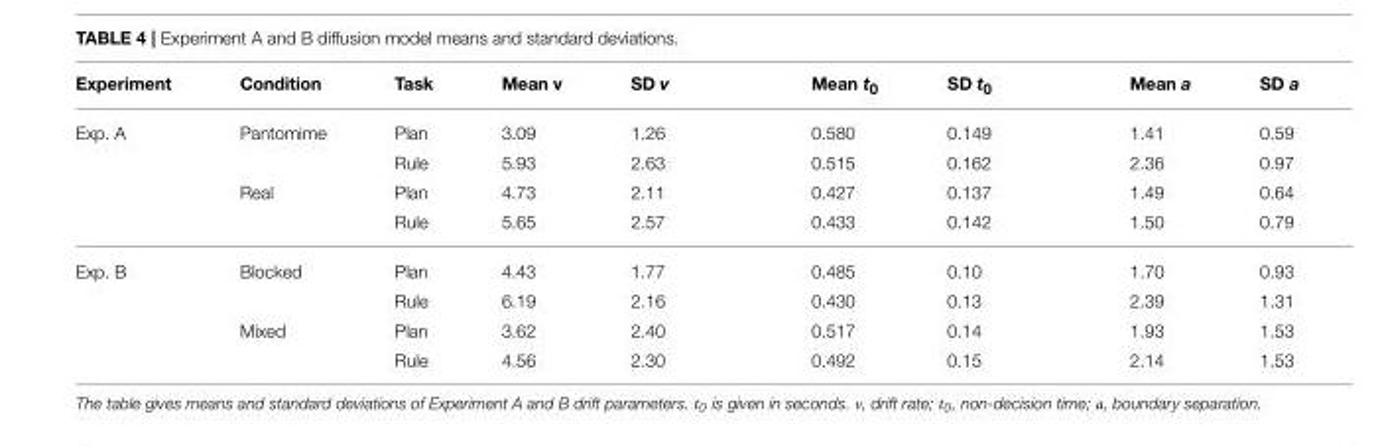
<table><thead><tr><td>Experiment</td><td>Condition</td><td>Task</td><td>Mean v</td><td>SD v</td><td>Mean t<sub>0</sub></td><td>SD t<sub>0</sub></td><td>Mean a</td><td>SD a</td></tr></thead><tbody><tr><td rowspan="4">Exp. A</td><td>Pantomime</td><td>Plan</td><td>3.09</td><td>1.26</td><td>0.580</td><td>0.149</td><td>1.41</td><td>0.59</td></tr><tr><td></td><td>Rule</td><td>5.93</td><td>2.63</td><td>0.515</td><td>0.162</td><td>2.36</td><td>0.97</td></tr><tr><td>Real</td><td>Plan</td><td>4.73</td><td>2.11</td><td>0.427</td><td>0.137</td><td>1.49</td><td>0.64</td></tr><tr><td></td><td>Rule</td><td>5.65</td><td>2.57</td><td>0.433</td><td>0.142</td><td>1.50</td><td>0.79</td></tr><tr><td rowspan="4">Exp. B</td><td>Blocked</td><td>Plan</td><td>4.43</td><td>1.77</td><td>0.485</td><td>0.10</td><td>1.70</td><td>0.93</td></tr><tr><td></td><td>Rule</td><td>6.19</td><td>2.16</td><td>0.430</td><td>0.13</td><td>2.39</td><td>1.31</td></tr><tr><td>Mixed</td><td>Plan</td><td>3.62</td><td>2.40</td><td>0.517</td><td>0.14</td><td>1.93</td><td>1.53</td></tr><tr><td></td><td>Rule</td><td>4.56</td><td>2.30</td><td>0.492</td><td>0.15</td><td>2.14</td><td>1.53</td></tr></tbody></table>